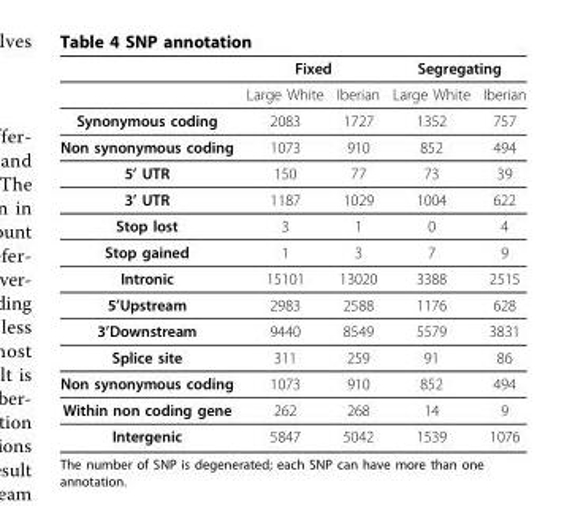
<table><thead><tr><td rowspan="2"></td><td colspan="2">Fixed</td><td colspan="2">Segregating</td></tr><tr><td>Large White</td><td>Iberian</td><td>Large White</td><td>Iberian</td></tr></thead><tbody><tr><td>Synonymous coding</td><td>2083</td><td>1727</td><td>1352</td><td>757</td></tr><tr><td>Non synonymous coding</td><td>1073</td><td>910</td><td>852</td><td>494</td></tr><tr><td>5’ UTR</td><td>150</td><td>77</td><td>73</td><td>39</td></tr><tr><td>3’ UTR</td><td>1187</td><td>1029</td><td>1004</td><td>622</td></tr><tr><td>Stop lost</td><td>3</td><td>1</td><td>0</td><td>4</td></tr><tr><td>Stop gained</td><td>1</td><td>3</td><td>7</td><td>9</td></tr><tr><td>Intronic</td><td>15101</td><td>13020</td><td>3388</td><td>2515</td></tr><tr><td>5’Upstream</td><td>2983</td><td>2588</td><td>1176</td><td>628</td></tr><tr><td>3’Downstream</td><td>9440</td><td>8549</td><td>5579</td><td>3831</td></tr><tr><td>Splice site</td><td>311</td><td>259</td><td>91</td><td>86</td></tr><tr><td>Non synonymous coding</td><td>1073</td><td>910</td><td>852</td><td>494</td></tr><tr><td>Within non coding gene</td><td>262</td><td>268</td><td>14</td><td>9</td></tr><tr><td>Intergenic</td><td>5847</td><td>5042</td><td>1539</td><td>1076</td></tr></tbody></table>